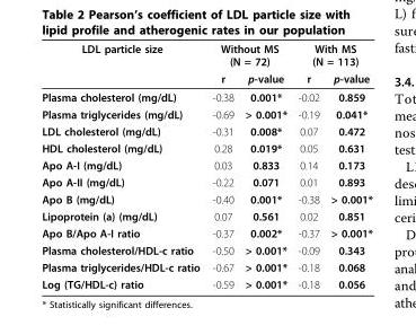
<table><thead><tr><td rowspan="2">LDL particle size</td><td colspan="2">Without MS (N = 72)</td><td colspan="2">With MS (N = 113)</td></tr><tr><td>r</td><td>p-value</td><td>r</td><td>p-value</td></tr></thead><tbody><tr><td>Plasma cholesterol (mg/dL)</td><td>-0.38</td><td>0.001*</td><td>-0.02</td><td>0.859</td></tr><tr><td>Plasma triglycerides (mg/dL)</td><td>-0.69</td><td>&gt; 0.001*</td><td>-0.19</td><td>0.041*</td></tr><tr><td>LDL cholesterol (mg/dL)</td><td>-0.31</td><td>0.008*</td><td>0.07</td><td>0.472</td></tr><tr><td>HDL cholesterol (mg/dL)</td><td>0.28</td><td>0.019*</td><td>0.05</td><td>0.631</td></tr><tr><td>Apo A-I (mg/dL)</td><td>0.03</td><td>0.833</td><td>0.14</td><td>0.173</td></tr><tr><td>Apo A-II (mg/dL)</td><td>-0.22</td><td>0.071</td><td>0.01</td><td>0.893</td></tr><tr><td>Apo B (mg/dL)</td><td>-0.40</td><td>0.001*</td><td>-0.38</td><td>&gt; 0.001*</td></tr><tr><td>Lipoprotein (a) (mg/dL)</td><td>0.07</td><td>0.561</td><td>0.02</td><td>0.851</td></tr><tr><td>Apo B/Apo A-I ratio</td><td>-0.37</td><td>0.002*</td><td>-0.37</td><td>&gt; 0.001*</td></tr><tr><td>Plasma cholesterol/HDL-c ratio</td><td>-0.50</td><td>&gt; 0.001*</td><td>-0.09</td><td>0.343</td></tr><tr><td>Plasma triglycerides/HDL-c ratio</td><td>-0.67</td><td>&gt; 0.001*</td><td>-0.18</td><td>0.068</td></tr><tr><td>Log (TG/HDL-c) ratio</td><td>-0.59</td><td>&gt; 0.001*</td><td>-0.18</td><td>0.056</td></tr></tbody></table>